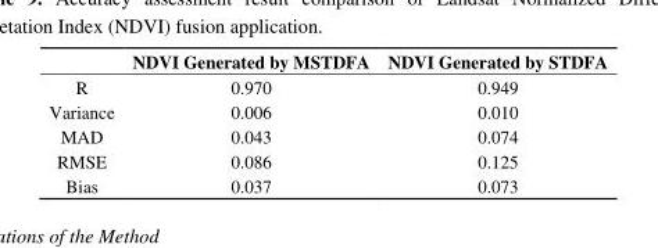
<table><thead><tr><td></td><td>NDVI Generated by MSTDFA</td><td>NDVI Generated by STDFA</td></tr></thead><tbody><tr><td>R</td><td>0.970</td><td>0.949</td></tr><tr><td>Variance</td><td>0.006</td><td>0.010</td></tr><tr><td>MAD</td><td>0.043</td><td>0.074</td></tr><tr><td>RMSE</td><td>0.086</td><td>0.125</td></tr><tr><td>Bias</td><td>0.037</td><td>0.073</td></tr></tbody></table>